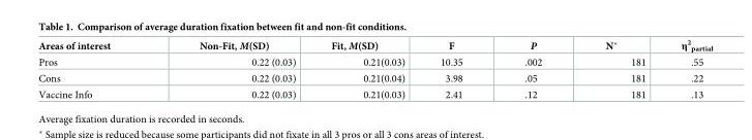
<table><thead><tr><td>Areas of interest</td><td>Non-Fit, M(SD)</td><td>Fit, M(SD)</td><td>F</td><td>P</td><td>N*</td><td>η<sup>2</sup> <sub>partial</sub></td></tr></thead><tbody><tr><td>Pros</td><td>0.22 (0.03)</td><td>0.21(0.03)</td><td>10.35</td><td>.002</td><td>181</td><td>.55</td></tr><tr><td>Cons</td><td>0.22 (0.03)</td><td>0.21(0.04)</td><td>3.98</td><td>.05</td><td>181</td><td>.22</td></tr><tr><td>Vaccine Info</td><td>0.22 (0.03)</td><td>0.21(0.03)</td><td>2.41</td><td>.12</td><td>181</td><td>.13</td></tr></tbody></table>